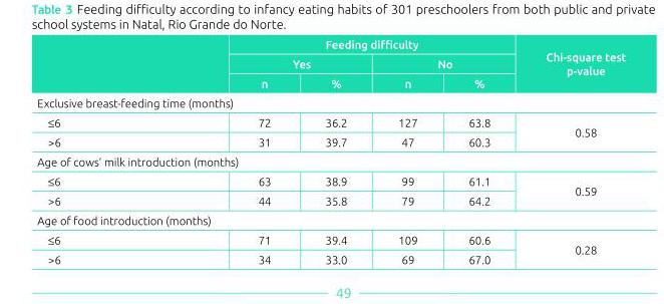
<table><thead><tr><td rowspan="3"></td><td colspan="4">Feeding difficulty</td><td rowspan="3">Chi-square test p-value</td></tr><tr><td colspan="2">Yes</td><td colspan="2">No</td></tr><tr><td>n</td><td>%</td><td>n</td><td>%</td></tr></thead><tbody><tr><td colspan="6">Exclusive breast-feeding time (months)</td></tr><tr><td>≤6</td><td>72</td><td>36.2</td><td>127</td><td>63.8</td><td rowspan="2">0.58</td></tr><tr><td>&gt;6</td><td>31</td><td>39.7</td><td>47</td><td>60.3</td></tr><tr><td colspan="6">Age of cows’ milk introduction (months)</td></tr><tr><td>≤6</td><td>63</td><td>38.9</td><td>99</td><td>61.1</td><td rowspan="2">0.59</td></tr><tr><td>&gt;6</td><td>44</td><td>35.8</td><td>79</td><td>64.2</td></tr><tr><td colspan="6">Age of food introduction (months)</td></tr><tr><td>≤6</td><td>71</td><td>39.4</td><td>109</td><td>60.6</td><td rowspan="2">0.28</td></tr><tr><td>&gt;6</td><td>34</td><td>33.0</td><td>69</td><td>67.0</td></tr></tbody></table>